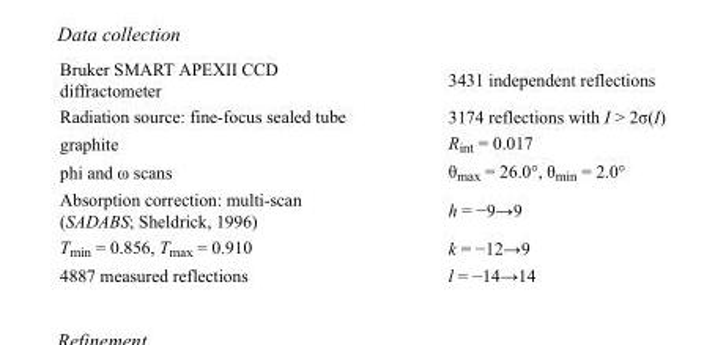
<table><tbody><tr><td>Bruker SMART APEXII CCD diffractometer</td><td>3431 independent reflections</td></tr><tr><td>Radiation source: fine-focus sealed tube</td><td>3174 reflections with I &gt; 2σ(I)</td></tr><tr><td>graphite</td><td>R<sub>int</sub> = 0.017</td></tr><tr><td>phi and ω scans</td><td>θ<sub>max</sub> = 26.0°, θ<sub>min</sub> = 2.0°</td></tr><tr><td>Absorption correction: multi-scan (SADABS; Sheldrick, 1996)</td><td>h = −9→9</td></tr><tr><td>T<sub>min</sub> = 0.856, T<sub>max</sub> = 0.910</td><td>k = −12→9</td></tr><tr><td>4887 measured reflections</td><td>l = −14→14</td></tr></tbody></table>